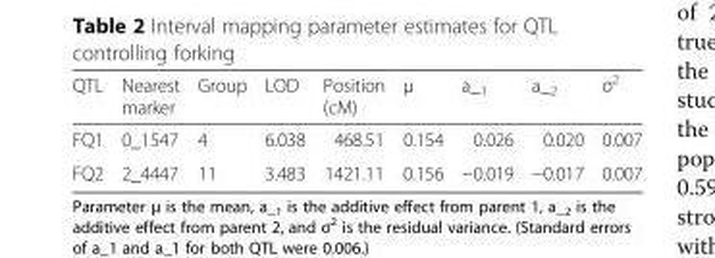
<table><thead><tr><td>QTL</td><td>Nearest marker</td><td>Group</td><td>LOD</td><td>Position (cM)</td><td>μ</td><td>a_1</td><td>a_2</td><td>σ<sup>2</sup></td></tr></thead><tbody><tr><td>FQ1</td><td>0_1547</td><td>4</td><td>6.038</td><td>468.51</td><td>0.154</td><td>0.026</td><td>0.020</td><td>0.007</td></tr><tr><td>FQ2</td><td>2_4447</td><td>11</td><td>3.483</td><td>1421.11</td><td>0.156</td><td>−0.019</td><td>−0.017</td><td>0.007</td></tr></tbody></table>